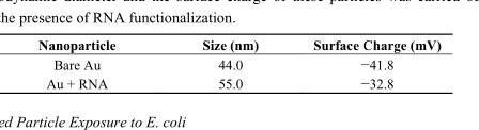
<table><thead><tr><td>Nanoparticle</td><td>Size (nm)</td><td>Surface Charge (mV)</td></tr></thead><tbody><tr><td>Bare Au</td><td>44.0</td><td>−41.8</td></tr><tr><td>Au + RNA</td><td>55.0</td><td>−32.8</td></tr></tbody></table>